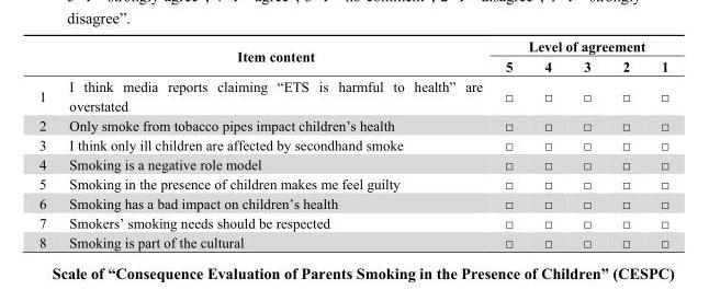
<table><thead><tr><td rowspan="2"></td><td rowspan="2">Item content</td><td colspan="5">Level of agreement</td></tr><tr><td>5</td><td>4</td><td>3</td><td>2</td><td>1</td></tr></thead><tbody><tr><td>1</td><td>I think media reports claiming “ETS is harmful to health” are overstated</td><td>□</td><td>□</td><td>□</td><td>□</td><td>□</td></tr><tr><td>2</td><td>Only smoke from tobacco pipes impact children’s health</td><td>□</td><td>□</td><td>□</td><td>□</td><td>□</td></tr><tr><td>3</td><td>I think only ill children are affected by secondhand smoke</td><td>□</td><td>□</td><td>□</td><td>□</td><td>□</td></tr><tr><td>4</td><td>Smoking is a negative role model</td><td>□</td><td>□</td><td>□</td><td>□</td><td>□</td></tr><tr><td>5</td><td>Smoking in the presence of children makes me feel guilty</td><td>□</td><td>□</td><td>□</td><td>□</td><td>□</td></tr><tr><td>6</td><td>Smoking has a bad impact on children’s health</td><td>□</td><td>□</td><td>□</td><td>□</td><td>□</td></tr><tr><td>7</td><td>Smokers’ smoking needs should be respected</td><td>□</td><td>□</td><td>□</td><td>□</td><td>□</td></tr><tr><td>8</td><td>Smoking is part of the cultural</td><td>□</td><td>□</td><td>□</td><td>□</td><td>□</td></tr></tbody></table>